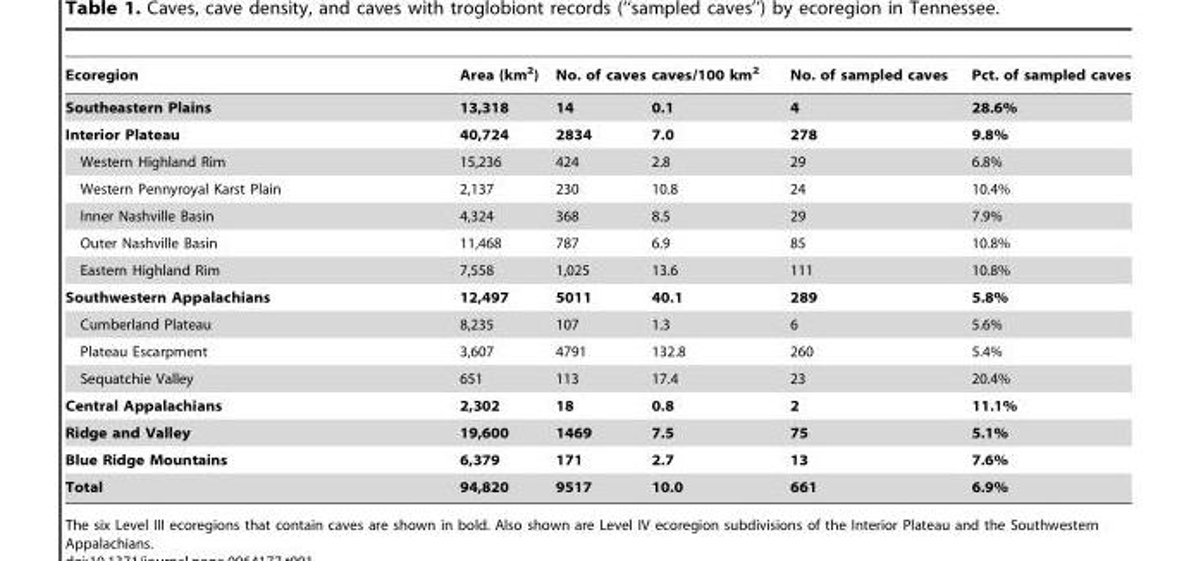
<table><thead><tr><td>Ecoregion</td><td>Area (km<sup>2</sup>)</td><td>No. of caves</td><td>caves/100 km<sup>2</sup></td><td>No. of sampled caves</td><td>Pct. of sampled caves</td></tr></thead><tbody><tr><td>Southeastern Plains</td><td>13,318</td><td>14</td><td>0.1</td><td>4</td><td>28.6%</td></tr><tr><td>Interior Plateau</td><td>40,724</td><td>2834</td><td>7.0</td><td>278</td><td>9.8%</td></tr><tr><td>Western Highland Rim</td><td>15,236</td><td>424</td><td>2.8</td><td>29</td><td>6.8%</td></tr><tr><td>Western Pennyroyal Karst Plain</td><td>2,137</td><td>230</td><td>10.8</td><td>24</td><td>10.4%</td></tr><tr><td>Inner Nashville Basin</td><td>4,324</td><td>368</td><td>8.5</td><td>29</td><td>7.9%</td></tr><tr><td>Outer Nashville Basin</td><td>11,468</td><td>787</td><td>6.9</td><td>85</td><td>10.8%</td></tr><tr><td>Eastern Highland Rim</td><td>7,558</td><td>1,025</td><td>13.6</td><td>111</td><td>10.8%</td></tr><tr><td>Southwestern Appalachians</td><td>12,497</td><td>5011</td><td>40.1</td><td>289</td><td>5.8%</td></tr><tr><td>Cumberland Plateau</td><td>8,235</td><td>107</td><td>1.3</td><td>6</td><td>5.6%</td></tr><tr><td>Plateau Escarpment</td><td>3,607</td><td>4791</td><td>132.8</td><td>260</td><td>5.4%</td></tr><tr><td>Sequatchie Valley</td><td>651</td><td>113</td><td>17.4</td><td>23</td><td>20.4%</td></tr><tr><td>Central Appalachians</td><td>2,302</td><td>18</td><td>0.8</td><td>2</td><td>11.1%</td></tr><tr><td>Ridge and Valley</td><td>19,600</td><td>1469</td><td>7.5</td><td>75</td><td>5.1%</td></tr><tr><td>Blue Ridge Mountains</td><td>6,379</td><td>171</td><td>2.7</td><td>13</td><td>7.6%</td></tr><tr><td>Total</td><td>94,820</td><td>9517</td><td>10.0</td><td>661</td><td>6.9%</td></tr></tbody></table>